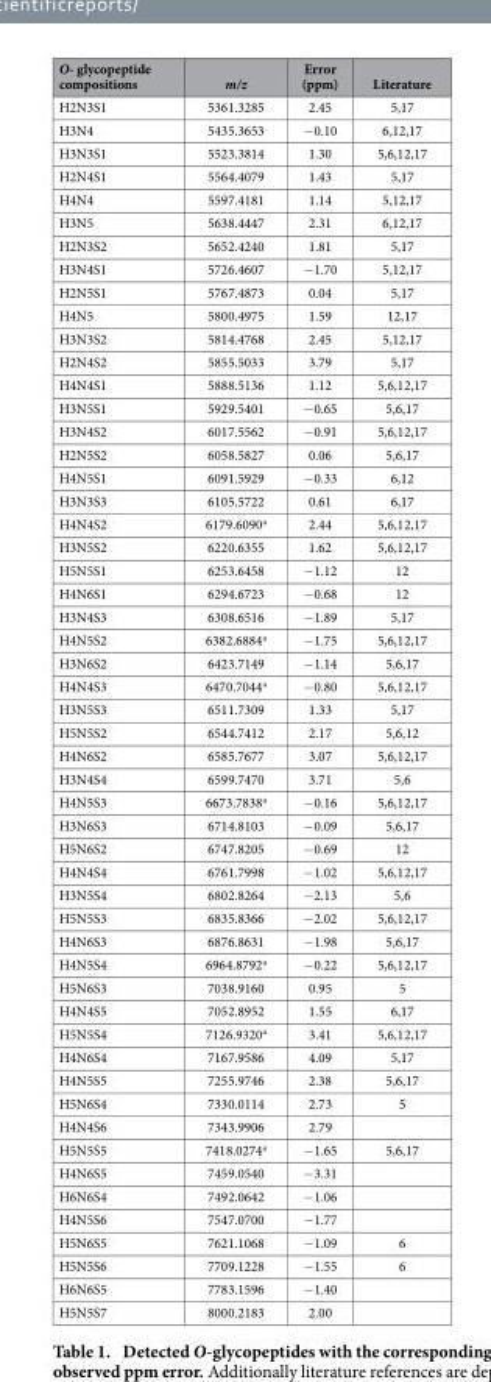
<table><thead><tr><td>O- glycopeptide compositions</td><td>m/z</td><td>Error (ppm)</td><td>Literature</td></tr></thead><tbody><tr><td>H2N3S1</td><td>5361.3285</td><td>2.45</td><td>5,17</td></tr><tr><td>H3N4</td><td>5435.3653</td><td>− 0.10</td><td>6,12,17</td></tr><tr><td>H3N3S1</td><td>5523.3814</td><td>1.30</td><td>5,6,12,17</td></tr><tr><td>H2N4S1</td><td>5564.4079</td><td>1.43</td><td>5,17</td></tr><tr><td>H4N4</td><td>5597.4181</td><td>1.14</td><td>5,12,17</td></tr><tr><td>H3N5</td><td>5638.4447</td><td>2.31</td><td>6,12,17</td></tr><tr><td>H2N3S2</td><td>5652.4240</td><td>1.81</td><td>5,17</td></tr><tr><td>H3N4S1</td><td>5726.4607</td><td>− 1.70</td><td>5,12,17</td></tr><tr><td>H2N5S1</td><td>5767.4873</td><td>0.04</td><td>5,17</td></tr><tr><td>H4N5</td><td>5800.4975</td><td>1.59</td><td>12,17</td></tr><tr><td>H3N3S2</td><td>5814.4768</td><td>2.45</td><td>5,12,17</td></tr><tr><td>H2N4S2</td><td>5855.5033</td><td>3.79</td><td>5,17</td></tr><tr><td>H4N4S1</td><td>5888.5136</td><td>1.12</td><td>5,6,12,17</td></tr><tr><td>H3N5S1</td><td>5929.5401</td><td>− 0.65</td><td>5,6,17</td></tr><tr><td>H3N4S2</td><td>6017.5562</td><td>− 0.91</td><td>5,6,12,17</td></tr><tr><td>H2N5S2</td><td>6058.5827</td><td>0.06</td><td>5,6,17</td></tr><tr><td>H4N5S1</td><td>6091.5929</td><td>− 0.33</td><td>6,12</td></tr><tr><td>H3N3S3</td><td>6105.5722</td><td>0.61</td><td>6,17</td></tr><tr><td>H4N4S2</td><td>6179.6090<sup>a</sup></td><td>2.44</td><td>5,6,12,17</td></tr><tr><td>H3N5S2</td><td>6220.6355</td><td>1.62</td><td>5,6,12,17</td></tr><tr><td>H5N5S1</td><td>6253.6458</td><td>− 1.12</td><td>12</td></tr><tr><td>H4N6S1</td><td>6294.6723</td><td>− 0.68</td><td>12</td></tr><tr><td>H3N4S3</td><td>6308.6516</td><td>− 1.89</td><td>5,17</td></tr><tr><td>H4N5S2</td><td>6382.6884<sup>a</sup></td><td>− 1.75</td><td>5,6,12,17</td></tr><tr><td>H3N6S2</td><td>6423.7149</td><td>− 1.14</td><td>5,6,17</td></tr><tr><td>H4N4S3</td><td>6470.7044<sup>a</sup></td><td>− 0.80</td><td>5,6,12,17</td></tr><tr><td>H3N5S3</td><td>6511.7309</td><td>1.33</td><td>5,17</td></tr><tr><td>H5N5S2</td><td>6544.7412</td><td>2.17</td><td>5,6,12</td></tr><tr><td>H4N6S2</td><td>6585.7677</td><td>3.07</td><td>5,6,12,17</td></tr><tr><td>H3N4S4</td><td>6599.7470</td><td>3.71</td><td>5,6</td></tr><tr><td>H4N5S3</td><td>6673.7838<sup>a</sup></td><td>− 0.16</td><td>5,6,12,17</td></tr><tr><td>H3N6S3</td><td>6714.8103</td><td>− 0.09</td><td>5,6,17</td></tr><tr><td>H5N6S2</td><td>6747.8205</td><td>− 0.69</td><td>12</td></tr><tr><td>H4N4S4</td><td>6761.7998</td><td>− 1.02</td><td>5,6,12,17</td></tr><tr><td>H3N5S4</td><td>6802.8264</td><td>− 2.13</td><td>5,6</td></tr><tr><td>H5N5S3</td><td>6835.8366</td><td>− 2.02</td><td>5,6,12,17</td></tr><tr><td>H4N6S3</td><td>6876.8631</td><td>− 1.98</td><td>5,6,17</td></tr><tr><td>H4N5S4</td><td>6964.8792<sup>a</sup></td><td>− 0.22</td><td>5,6,12,17</td></tr><tr><td>H5N6S3</td><td>7038.9160</td><td>0.95</td><td>5</td></tr><tr><td>H4N4S5</td><td>7052.8952</td><td>1.55</td><td>6,17</td></tr><tr><td>H5N5S4</td><td>7126.9320<sup>a</sup></td><td>3.41</td><td>5,6,12,17</td></tr><tr><td>H4N6S4</td><td>7167.9586</td><td>4.09</td><td>5,17</td></tr><tr><td>H4N5S5</td><td>7255.9746</td><td>2.38</td><td>5,6,17</td></tr><tr><td>H5N6S4</td><td>7330.0114</td><td>2.73</td><td>5</td></tr><tr><td>H4N4S6</td><td>7343.9906</td><td>2.79</td><td></td></tr><tr><td>H5N5S5</td><td>7418.0274<sup>a</sup></td><td>− 1.65</td><td>5,6,17</td></tr><tr><td>H4N6S5</td><td>7459.0540</td><td>− 3.31</td><td></td></tr><tr><td>H6N6S4</td><td>7492.0642</td><td>− 1.06</td><td></td></tr><tr><td>H4N5S6</td><td>7547.0700</td><td>− 1.77</td><td></td></tr><tr><td>H5N6S5</td><td>7621.1068</td><td>− 1.09</td><td>6</td></tr><tr><td>H5N5S6</td><td>7709.1228</td><td>− 1.55</td><td>6</td></tr><tr><td>H6N6S5</td><td>7783.1596</td><td>− 1.40</td><td></td></tr><tr><td>H5N5S7</td><td>8000.2183</td><td>2.00</td><td></td></tr></tbody></table>